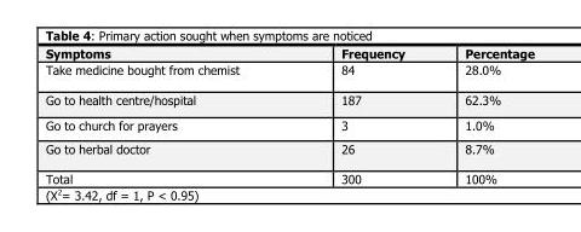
<table><thead><tr><td>Symptoms</td><td>Frequency</td><td>Percentage</td></tr></thead><tbody><tr><td>Take medicine bought from chemist</td><td>84</td><td>28.0%</td></tr><tr><td>Go to health centre/hospital</td><td>187</td><td>62.3%</td></tr><tr><td>Go to church for prayers</td><td>3</td><td>1.0%</td></tr><tr><td>Go to herbal doctor</td><td>26</td><td>8.7%</td></tr><tr><td>Total</td><td>300</td><td>100%</td></tr></tbody></table>